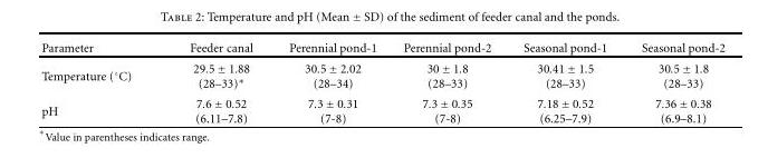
<table><thead><tr><td>Parameter</td><td>Feeder canal</td><td>Perennial pond-1</td><td>Perennial pond-2</td><td>Seasonal pond-1</td><td>Seasonal pond-2</td></tr></thead><tbody><tr><td>Temperature (◦C)</td><td>29.5 ± 1.88 (28–33)∗</td><td>30.5 ± 2.02 (28–34)</td><td>30 ± 1.8 (28–33)</td><td>30.41 ± 1.5 (28–33)</td><td>30.5 ± 1.8 (28–33)</td></tr><tr><td>pH</td><td>7.6 ± 0.52 (6.11–7.8)</td><td>7.3 ± 0.31 (7-8)</td><td>7.3 ± 0.35 (7-8)</td><td>7.18 ± 0.52 (6.25–7.9)</td><td>7.36 ± 0.38 (6.9–8.1)</td></tr></tbody></table>